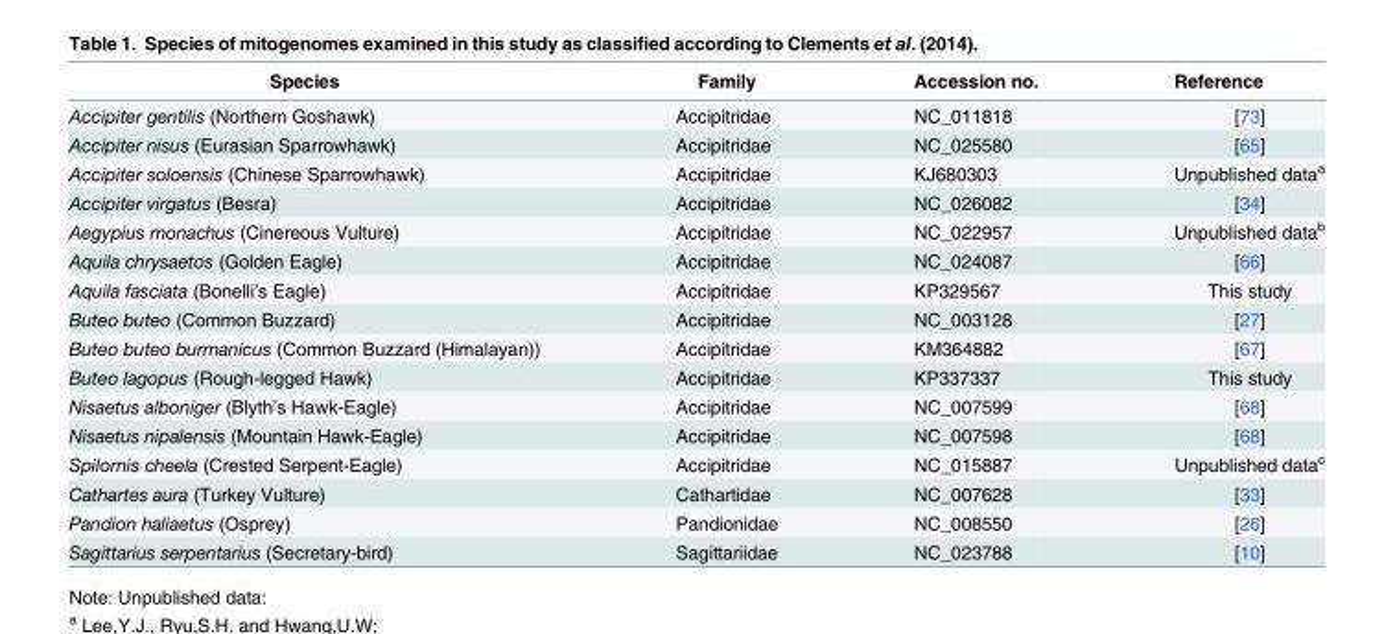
<table><thead><tr><td>Species</td><td>Family</td><td>Accession no.</td><td>Reference</td></tr></thead><tbody><tr><td>Accipiter gentilis (Northern Goshawk)</td><td>Accipitridae</td><td>NC_011818</td><td>[73]</td></tr><tr><td>Accipiter nisus (Eurasian Sparrowhawk)</td><td>Accipitridae</td><td>NC_025580</td><td>[65]</td></tr><tr><td>Accipiter soloensis (Chinese Sparrowhawk)</td><td>Accipitridae</td><td>KJ680303</td><td>Unpublished data<sup>a</sup></td></tr><tr><td>Accipiter virgatus (Besra)</td><td>Accipitridae</td><td>NC_026082</td><td>[34]</td></tr><tr><td>Aegypius monachus (Cinereous Vulture)</td><td>Accipitridae</td><td>NC_022957</td><td>Unpublished data<sup>b</sup></td></tr><tr><td>Aquila chrysaetos (Golden Eagle)</td><td>Accipitridae</td><td>NC_024087</td><td>[66]</td></tr><tr><td>Aquila fasciata (Bonelli’s Eagle)</td><td>Accipitridae</td><td>KP329567</td><td>This study</td></tr><tr><td>Buteo buteo (Common Buzzard)</td><td>Accipitridae</td><td>NC_003128</td><td>[27]</td></tr><tr><td>Buteo buteo burmanicus (Common Buzzard (Himalayan))</td><td>Accipitridae</td><td>KM364882</td><td>[67]</td></tr><tr><td>Buteo lagopus (Rough-legged Hawk)</td><td>Accipitridae</td><td>KP337337</td><td>This study</td></tr><tr><td>Nisaetus alboniger (Blyth’s Hawk-Eagle)</td><td>Accipitridae</td><td>NC_007599</td><td>[68]</td></tr><tr><td>Nisaetus nipalensis (Mountain Hawk-Eagle)</td><td>Accipitridae</td><td>NC_007598</td><td>[68]</td></tr><tr><td>Spilornis cheela (Crested Serpent-Eagle)</td><td>Accipitridae</td><td>NC_015887</td><td>Unpublished data<sup>c</sup></td></tr><tr><td>Cathartes aura (Turkey Vulture)</td><td>Cathartidae</td><td>NC_007628</td><td>[33]</td></tr><tr><td>Pandion haliaetus (Osprey)</td><td>Pandionidae</td><td>NC_008550</td><td>[26]</td></tr><tr><td>Sagittarius serpentarius (Secretary-bird)</td><td>Sagittariidae</td><td>NC_023788</td><td>[10]</td></tr></tbody></table>